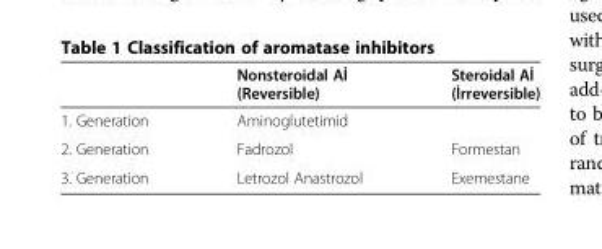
<table><thead><tr><td></td><td>Nonsteroidal Aİ (Reversible)</td><td>Steroidal Aİ (İrreversible)</td></tr></thead><tbody><tr><td>1. Generation</td><td>Aminoglutetimid</td><td></td></tr><tr><td>2. Generation</td><td>Fadrozol</td><td>Formestan</td></tr><tr><td>3. Generation</td><td>Letrozol Anastrozol</td><td>Exemestane</td></tr></tbody></table>